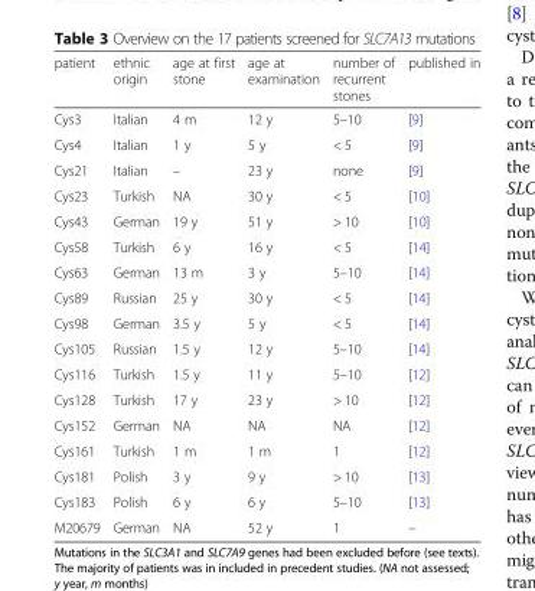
<table><thead><tr><td>patient</td><td>ethnic origin</td><td>age at first stone</td><td>age at examination</td><td>number of recurrent stones</td><td>published in</td></tr></thead><tbody><tr><td>Cys3</td><td>Italian</td><td>4 m</td><td>12 y</td><td>5–10</td><td>[9]</td></tr><tr><td>Cys4</td><td>Italian</td><td>1 y</td><td>5 y</td><td>&lt; 5</td><td>[9]</td></tr><tr><td>Cys21</td><td>Italian</td><td>–</td><td>23 y</td><td>none</td><td>[9]</td></tr><tr><td>Cys23</td><td>Turkish</td><td>NA</td><td>30 y</td><td>&lt; 5</td><td>[10]</td></tr><tr><td>Cys43</td><td>German</td><td>19 y</td><td>51 y</td><td>&gt; 10</td><td>[10]</td></tr><tr><td>Cys58</td><td>Turkish</td><td>6 y</td><td>16 y</td><td>&lt; 5</td><td>[14]</td></tr><tr><td>Cys63</td><td>German</td><td>13 m</td><td>3 y</td><td>5–10</td><td>[14]</td></tr><tr><td>Cys89</td><td>Russian</td><td>25 y</td><td>30 y</td><td>&lt; 5</td><td>[14]</td></tr><tr><td>Cys98</td><td>German</td><td>3.5 y</td><td>5 y</td><td>&lt; 5</td><td>[14]</td></tr><tr><td>Cys105</td><td>Russian</td><td>1.5 y</td><td>12 y</td><td>5–10</td><td>[14]</td></tr><tr><td>Cys116</td><td>Turkish</td><td>1.5 y</td><td>11 y</td><td>5–10</td><td>[12]</td></tr><tr><td>Cys128</td><td>Turkish</td><td>17 y</td><td>23 y</td><td>&gt; 10</td><td>[12]</td></tr><tr><td>Cys152</td><td>German</td><td>NA</td><td>NA</td><td>NA</td><td>[12]</td></tr><tr><td>Cys161</td><td>Turkish</td><td>1 m</td><td>1 m</td><td>1</td><td>[12]</td></tr><tr><td>Cys181</td><td>Polish</td><td>3 y</td><td>9 y</td><td>&gt; 10</td><td>[13]</td></tr><tr><td>Cys183</td><td>Polish</td><td>6 y</td><td>6 y</td><td>5–10</td><td>[13]</td></tr><tr><td>M20679</td><td>German</td><td>NA</td><td>52 y</td><td>1</td><td>–</td></tr></tbody></table>